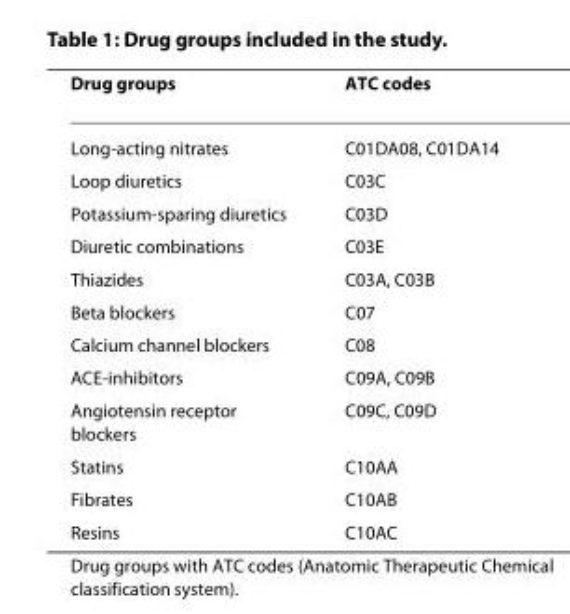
<table><thead><tr><td>Drug groups</td><td>ATC codes</td></tr></thead><tbody><tr><td>Long-acting nitrates</td><td>C01DA08, C01DA14</td></tr><tr><td>Loop diuretics</td><td>C03C</td></tr><tr><td>Potassium-sparing diuretics</td><td>C03D</td></tr><tr><td>Diuretic combinations</td><td>C03E</td></tr><tr><td>Thiazides</td><td>C03A, C03B</td></tr><tr><td>Beta blockers</td><td>C07</td></tr><tr><td>Calcium channel blockers</td><td>C08</td></tr><tr><td>ACE-inhibitors</td><td>C09A, C09B</td></tr><tr><td>Angiotensin receptor blockers</td><td>C09C, C09D</td></tr><tr><td>Statins</td><td>C10AA</td></tr><tr><td>Fibrates</td><td>C10AB</td></tr><tr><td>Resins</td><td>C10AC</td></tr></tbody></table>